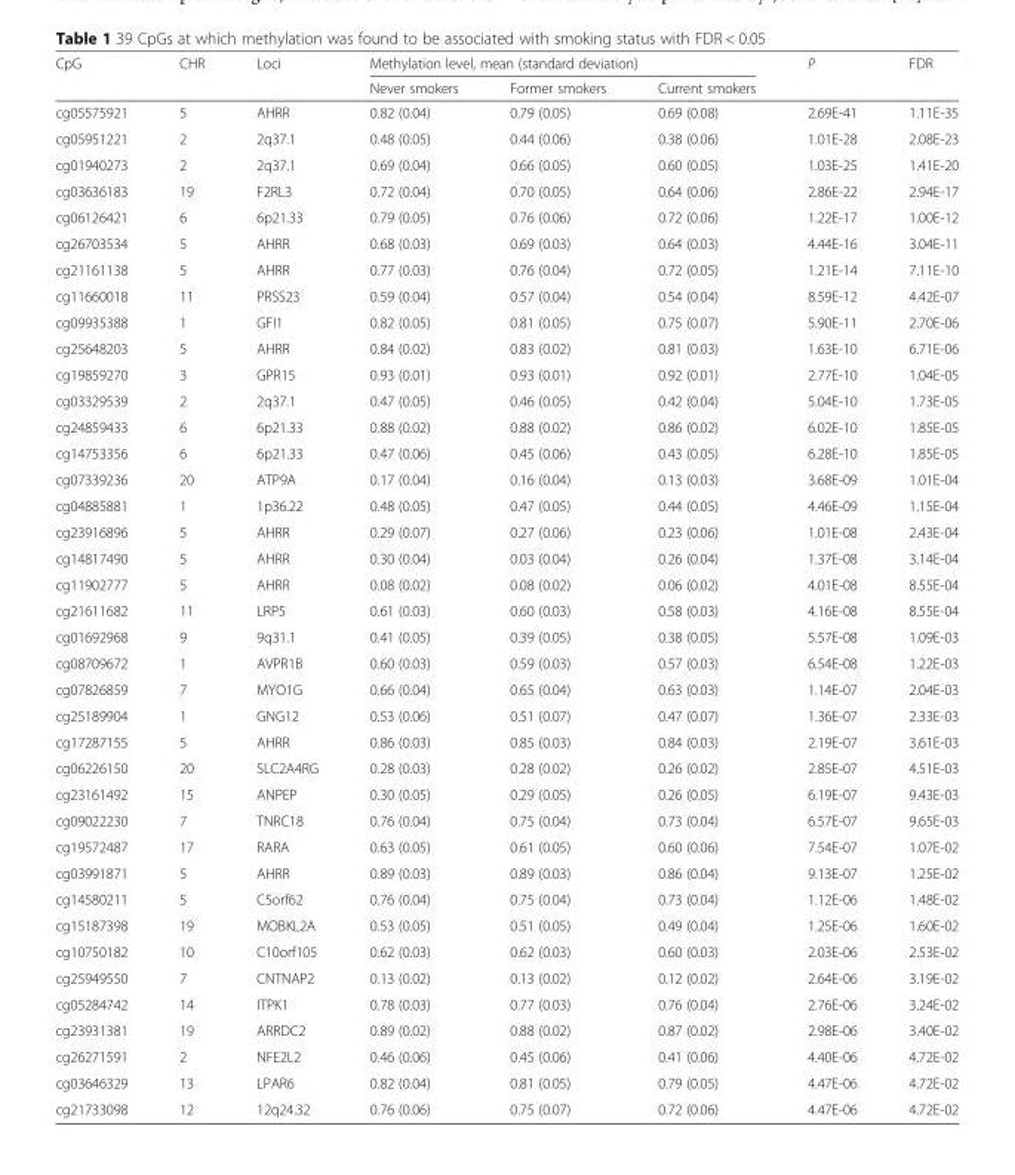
<table><thead><tr><td rowspan="2">CpG</td><td rowspan="2">CHR</td><td rowspan="2">Loci</td><td colspan="3">Methylation level, mean (standard deviation)</td><td rowspan="2">P</td><td rowspan="2">FDR</td></tr><tr><td>Never smokers</td><td>Former smokers</td><td>Current smokers</td></tr></thead><tbody><tr><td>cg05575921</td><td>5</td><td>AHRR</td><td>0.82 (0.04)</td><td>0.79 (0.05)</td><td>0.69 (0.08)</td><td>2.69E-41</td><td>1.11E-35</td></tr><tr><td>cg05951221</td><td>2</td><td>2q37.1</td><td>0.48 (0.05)</td><td>0.44 (0.06)</td><td>0.38 (0.06)</td><td>1.01E-28</td><td>2.08E-23</td></tr><tr><td>cg01940273</td><td>2</td><td>2q37.1</td><td>0.69 (0.04)</td><td>0.66 (0.05)</td><td>0.60 (0.05)</td><td>1.03E-25</td><td>1.41E-20</td></tr><tr><td>cg03636183</td><td>19</td><td>F2RL3</td><td>0.72 (0.04)</td><td>0.70 (0.05)</td><td>0.64 (0.06)</td><td>2.86E-22</td><td>2.94E-17</td></tr><tr><td>cg06126421</td><td>6</td><td>6p21.33</td><td>0.79 (0.05)</td><td>0.76 (0.06)</td><td>0.72 (0.06)</td><td>1.22E-17</td><td>1.00E-12</td></tr><tr><td>cg26703534</td><td>5</td><td>AHRR</td><td>0.68 (0.03)</td><td>0.69 (0.03)</td><td>0.64 (0.03)</td><td>4.44E-16</td><td>3.04E-11</td></tr><tr><td>cg21161138</td><td>5</td><td>AHRR</td><td>0.77 (0.03)</td><td>0.76 (0.04)</td><td>0.72 (0.05)</td><td>1.21E-14</td><td>7.11E-10</td></tr><tr><td>cg11660018</td><td>11</td><td>PRSS23</td><td>0.59 (0.04)</td><td>0.57 (0.04)</td><td>0.54 (0.04)</td><td>8.59E-12</td><td>4.42E-07</td></tr><tr><td>cg09935388</td><td>1</td><td>GFI1</td><td>0.82 (0.05)</td><td>0.81 (0.05)</td><td>0.75 (0.07)</td><td>5.90E-11</td><td>2.70E-06</td></tr><tr><td>cg25648203</td><td>5</td><td>AHRR</td><td>0.84 (0.02)</td><td>0.83 (0.02)</td><td>0.81 (0.03)</td><td>1.63E-10</td><td>6.71E-06</td></tr><tr><td>cg19859270</td><td>3</td><td>GPR15</td><td>0.93 (0.01)</td><td>0.93 (0.01)</td><td>0.92 (0.01)</td><td>2.77E-10</td><td>1.04E-05</td></tr><tr><td>cg03329539</td><td>2</td><td>2q37.1</td><td>0.47 (0.05)</td><td>0.46 (0.05)</td><td>0.42 (0.04)</td><td>5.04E-10</td><td>1.73E-05</td></tr><tr><td>cg24859433</td><td>6</td><td>6p21.33</td><td>0.88 (0.02)</td><td>0.88 (0.02)</td><td>0.86 (0.02)</td><td>6.02E-10</td><td>1.85E-05</td></tr><tr><td>cg14753356</td><td>6</td><td>6p21.33</td><td>0.47 (0.06)</td><td>0.45 (0.06)</td><td>0.43 (0.05)</td><td>6.28E-10</td><td>1.85E-05</td></tr><tr><td>cg07339236</td><td>20</td><td>ATP9A</td><td>0.17 (0.04)</td><td>0.16 (0.04)</td><td>0.13 (0.03)</td><td>3.68E-09</td><td>1.01E-04</td></tr><tr><td>cg04885881</td><td>1</td><td>1p36.22</td><td>0.48 (0.05)</td><td>0.47 (0.05)</td><td>0.44 (0.05)</td><td>4.46E-09</td><td>1.15E-04</td></tr><tr><td>cg23916896</td><td>5</td><td>AHRR</td><td>0.29 (0.07)</td><td>0.27 (0.06)</td><td>0.23 (0.06)</td><td>1.01E-08</td><td>2.43E-04</td></tr><tr><td>cg14817490</td><td>5</td><td>AHRR</td><td>0.30 (0.04)</td><td>0.03 (0.04)</td><td>0.26 (0.04)</td><td>1.37E-08</td><td>3.14E-04</td></tr><tr><td>cg11902777</td><td>5</td><td>AHRR</td><td>0.08 (0.02)</td><td>0.08 (0.02)</td><td>0.06 (0.02)</td><td>4.01E-08</td><td>8.55E-04</td></tr><tr><td>cg21611682</td><td>11</td><td>LRP5</td><td>0.61 (0.03)</td><td>0.60 (0.03)</td><td>0.58 (0.03)</td><td>4.16E-08</td><td>8.55E-04</td></tr><tr><td>cg01692968</td><td>9</td><td>9q31.1</td><td>0.41 (0.05)</td><td>0.39 (0.05)</td><td>0.38 (0.05)</td><td>5.57E-08</td><td>1.09E-03</td></tr><tr><td>cg08709672</td><td>1</td><td>AVPR1B</td><td>0.60 (0.03)</td><td>0.59 (0.03)</td><td>0.57 (0.03)</td><td>6.54E-08</td><td>1.22E-03</td></tr><tr><td>cg07826859</td><td>7</td><td>MYO1G</td><td>0.66 (0.04)</td><td>0.65 (0.04)</td><td>0.63 (0.03)</td><td>1.14E-07</td><td>2.04E-03</td></tr><tr><td>cg25189904</td><td>1</td><td>GNG12</td><td>0.53 (0.06)</td><td>0.51 (0.07)</td><td>0.47 (0.07)</td><td>1.36E-07</td><td>2.33E-03</td></tr><tr><td>cg17287155</td><td>5</td><td>AHRR</td><td>0.86 (0.03)</td><td>0.85 (0.03)</td><td>0.84 (0.03)</td><td>2.19E-07</td><td>3.61E-03</td></tr><tr><td>cg06226150</td><td>20</td><td>SLC2A4RG</td><td>0.28 (0.03)</td><td>0.28 (0.02)</td><td>0.26 (0.02)</td><td>2.85E-07</td><td>4.51E-03</td></tr><tr><td>cg23161492</td><td>15</td><td>ANPEP</td><td>0.30 (0.05)</td><td>0.29 (0.05)</td><td>0.26 (0.05)</td><td>6.19E-07</td><td>9.43E-03</td></tr><tr><td>cg09022230</td><td>7</td><td>TNRC18</td><td>0.76 (0.04)</td><td>0.75 (0.04)</td><td>0.73 (0.04)</td><td>6.57E-07</td><td>9.65E-03</td></tr><tr><td>cg19572487</td><td>17</td><td>RARA</td><td>0.63 (0.05)</td><td>0.61 (0.05)</td><td>0.60 (0.06)</td><td>7.54E-07</td><td>1.07E-02</td></tr><tr><td>cg03991871</td><td>5</td><td>AHRR</td><td>0.89 (0.03)</td><td>0.89 (0.03)</td><td>0.86 (0.04)</td><td>9.13E-07</td><td>1.25E-02</td></tr><tr><td>cg14580211</td><td>5</td><td>C5orf62</td><td>0.76 (0.04)</td><td>0.75 (0.04)</td><td>0.73 (0.04)</td><td>1.12E-06</td><td>1.48E-02</td></tr><tr><td>cg15187398</td><td>19</td><td>MOBKL2A</td><td>0.53 (0.05)</td><td>0.51 (0.05)</td><td>0.49 (0.04)</td><td>1.25E-06</td><td>1.60E-02</td></tr><tr><td>cg10750182</td><td>10</td><td>C10orf105</td><td>0.62 (0.03)</td><td>0.62 (0.03)</td><td>0.60 (0.03)</td><td>2.03E-06</td><td>2.53E-02</td></tr><tr><td>cg25949550</td><td>7</td><td>CNTNAP2</td><td>0.13 (0.02)</td><td>0.13 (0.02)</td><td>0.12 (0.02)</td><td>2.64E-06</td><td>3.19E-02</td></tr><tr><td>cg05284742</td><td>14</td><td>ITPK1</td><td>0.78 (0.03)</td><td>0.77 (0.03)</td><td>0.76 (0.04)</td><td>2.76E-06</td><td>3.24E-02</td></tr><tr><td>cg23931381</td><td>19</td><td>ARRDC2</td><td>0.89 (0.02)</td><td>0.88 (0.02)</td><td>0.87 (0.02)</td><td>2.98E-06</td><td>3.40E-02</td></tr><tr><td>cg26271591</td><td>2</td><td>NFE2L2</td><td>0.46 (0.06)</td><td>0.45 (0.06)</td><td>0.41 (0.06)</td><td>4.40E-06</td><td>4.72E-02</td></tr><tr><td>cg03646329</td><td>13</td><td>LPAR6</td><td>0.82 (0.04)</td><td>0.81 (0.05)</td><td>0.79 (0.05)</td><td>4.47E-06</td><td>4.72E-02</td></tr><tr><td>cg21733098</td><td>12</td><td>12q24.32</td><td>0.76 (0.06)</td><td>0.75 (0.07)</td><td>0.72 (0.06)</td><td>4.47E-06</td><td>4.72E-02</td></tr></tbody></table>